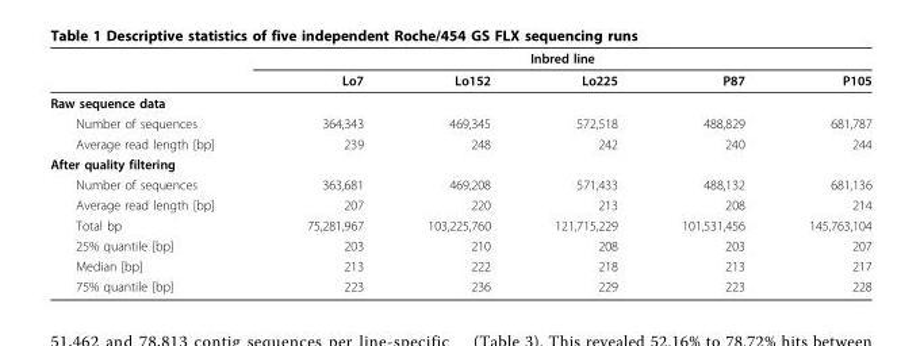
<table><thead><tr><td rowspan="2"></td><td colspan="5">Inbred line</td></tr><tr><td>Lo7</td><td>Lo152</td><td>Lo225</td><td>P87</td><td>P105</td></tr></thead><tbody><tr><td colspan="6">Raw sequence data</td></tr><tr><td>Number of sequences</td><td>364,343</td><td>469,345</td><td>572,518</td><td>488,829</td><td>681,787</td></tr><tr><td>Average read length [bp]</td><td>239</td><td>248</td><td>242</td><td>240</td><td>244</td></tr><tr><td colspan="6">After quality filtering</td></tr><tr><td>Number of sequences</td><td>363,681</td><td>469,208</td><td>571,433</td><td>488,132</td><td>681,136</td></tr><tr><td>Average read length [bp]</td><td>207</td><td>220</td><td>213</td><td>208</td><td>214</td></tr><tr><td>Total bp</td><td>75,281,967</td><td>103,225,760</td><td>121,715,229</td><td>101,531,456</td><td>145,763,104</td></tr><tr><td>25% quantile [bp]</td><td>203</td><td>210</td><td>208</td><td>203</td><td>207</td></tr><tr><td>Median [bp]</td><td>213</td><td>222</td><td>218</td><td>213</td><td>217</td></tr><tr><td>75% quantile [bp]</td><td>223</td><td>236</td><td>229</td><td>223</td><td>228</td></tr></tbody></table>